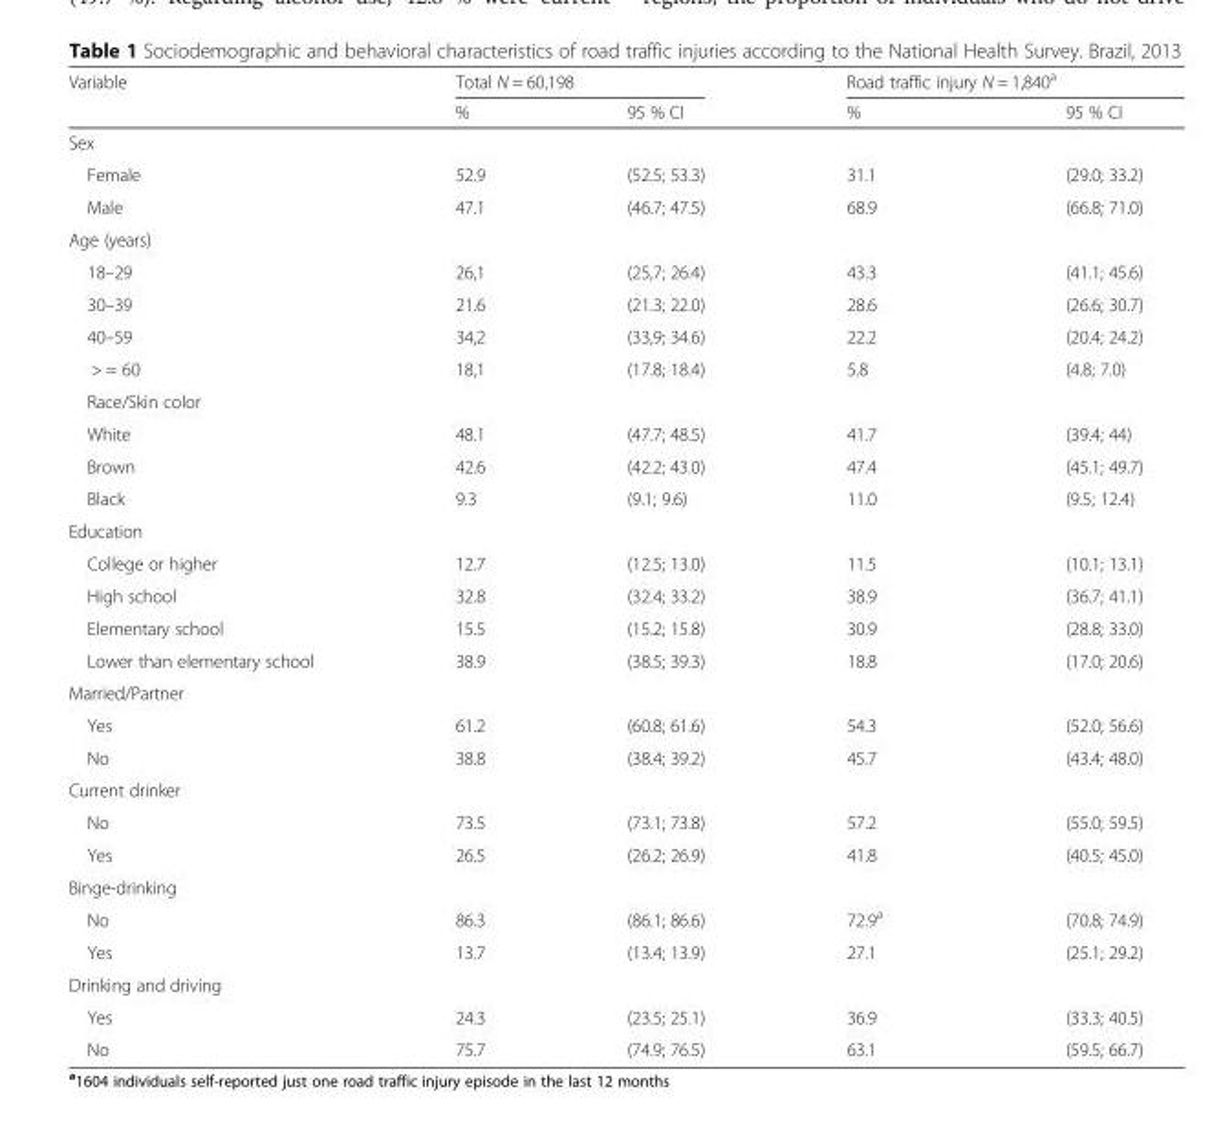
<table><thead><tr><td rowspan="2">Variable</td><td colspan="2">Total N = 60,198</td><td colspan="2">Road traffic injury N = 1,840<sup>a</sup></td></tr><tr><td>%</td><td>95 % CI</td><td>%</td><td>95 % CI</td></tr></thead><tbody><tr><td colspan="5">Sex</td></tr><tr><td>Female</td><td>52.9</td><td>(52.5; 53.3)</td><td>31.1</td><td>(29.0; 33.2)</td></tr><tr><td>Male</td><td>47.1</td><td>(46.7; 47.5)</td><td>68.9</td><td>(66.8; 71.0)</td></tr><tr><td colspan="5">Age (years)</td></tr><tr><td>18–29</td><td>26,1</td><td>(25,7; 26.4)</td><td>43.3</td><td>(41.1; 45.6)</td></tr><tr><td>30–39</td><td>21.6</td><td>(21.3; 22.0)</td><td>28.6</td><td>(26.6; 30.7)</td></tr><tr><td>40–59</td><td>34,2</td><td>(33,9; 34.6)</td><td>22.2</td><td>(20.4; 24.2)</td></tr><tr><td>&gt; = 60</td><td>18,1</td><td>(17.8; 18.4)</td><td>5.8</td><td>(4.8; 7.0)</td></tr><tr><td colspan="5">Race/Skin color</td></tr><tr><td>White</td><td>48.1</td><td>(47.7; 48.5)</td><td>41.7</td><td>(39.4; 44)</td></tr><tr><td>Brown</td><td>42.6</td><td>(42.2; 43.0)</td><td>47.4</td><td>(45.1; 49.7)</td></tr><tr><td>Black</td><td>9.3</td><td>(9.1; 9.6)</td><td>11.0</td><td>(9.5; 12.4)</td></tr><tr><td colspan="5">Education</td></tr><tr><td>College or higher</td><td>12.7</td><td>(12.5; 13.0)</td><td>11.5</td><td>(10.1; 13.1)</td></tr><tr><td>High school</td><td>32.8</td><td>(32.4; 33.2)</td><td>38.9</td><td>(36.7; 41.1)</td></tr><tr><td>Elementary school</td><td>15.5</td><td>(15.2; 15.8)</td><td>30.9</td><td>(28.8; 33.0)</td></tr><tr><td>Lower than elementary school</td><td>38.9</td><td>(38.5; 39.3)</td><td>18.8</td><td>(17.0; 20.6)</td></tr><tr><td colspan="5">Married/Partner</td></tr><tr><td>Yes</td><td>61.2</td><td>(60.8; 61.6)</td><td>54.3</td><td>(52.0; 56.6)</td></tr><tr><td>No</td><td>38.8</td><td>(38.4; 39.2)</td><td>45.7</td><td>(43.4; 48.0)</td></tr><tr><td colspan="5">Current drinker</td></tr><tr><td>No</td><td>73.5</td><td>(73.1; 73.8)</td><td>57.2</td><td>(55.0; 59.5)</td></tr><tr><td>Yes</td><td>26.5</td><td>(26.2; 26.9)</td><td>41.8</td><td>(40.5; 45.0)</td></tr><tr><td colspan="5">Binge-drinking</td></tr><tr><td>No</td><td>86.3</td><td>(86.1; 86.6)</td><td>72.9<sup>a</sup></td><td>(70.8; 74.9)</td></tr><tr><td>Yes</td><td>13.7</td><td>(13.4; 13.9)</td><td>27.1</td><td>(25.1; 29.2)</td></tr><tr><td colspan="5">Drinking and driving</td></tr><tr><td>Yes</td><td>24.3</td><td>(23.5; 25.1)</td><td>36.9</td><td>(33.3; 40.5)</td></tr><tr><td>No</td><td>75.7</td><td>(74.9; 76.5)</td><td>63.1</td><td>(59.5; 66.7)</td></tr></tbody></table>